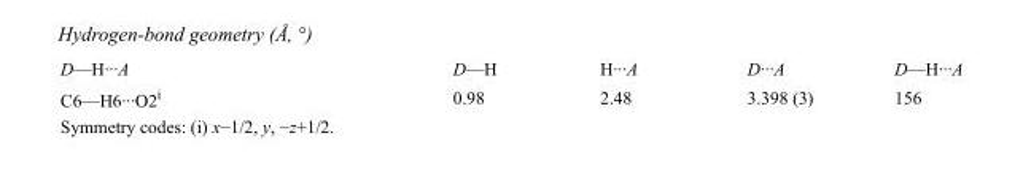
<table><tbody><tr><td>D—H···A</td><td>D—H</td><td>H···A</td><td>D···A</td><td>D—H···A</td></tr><tr><td>C6—H6···O2<sup>i</sup></td><td>0.98</td><td>2.48</td><td>3.398 (3)</td><td>156</td></tr></tbody></table>